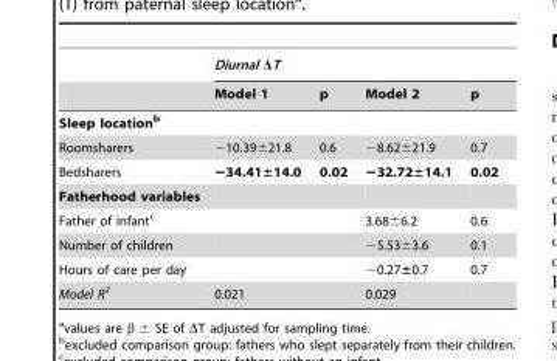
<table><thead><tr><td rowspan="2"></td><td colspan="4">Diurnal ΔT</td></tr><tr><td>Model 1</td><td>p</td><td>Model 2</td><td>p</td></tr></thead><tbody><tr><td colspan="5">Sleep locationb</td></tr><tr><td>Roomsharers</td><td>−10.39±21.8</td><td>0.6</td><td>−8.62±21.9</td><td>0.7</td></tr><tr><td>Bedsharers</td><td>−34.41±14.0</td><td>0.02</td><td>−32.72±14.1</td><td>0.02</td></tr><tr><td colspan="5">Fatherhood variables</td></tr><tr><td>Father of infant<sup>c</sup></td><td></td><td></td><td>3.68±6.2</td><td>0.6</td></tr><tr><td>Number of children</td><td></td><td></td><td>−5.53±3.6</td><td>0.1</td></tr><tr><td>Hours of care per day</td><td></td><td></td><td>−0.27±0.7</td><td>0.7</td></tr><tr><td>Model R<sup>2</sup></td><td>0.021</td><td></td><td>0.029</td><td></td></tr></tbody></table>